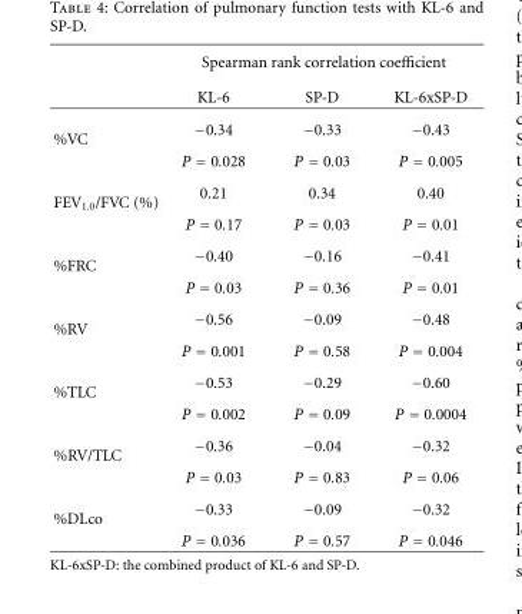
<table><thead><tr><td rowspan="2"></td><td colspan="3">Spearman rank correlation coefficient</td></tr><tr><td>KL-6</td><td>SP-D</td><td>KL-6xSP-D</td></tr></thead><tbody><tr><td rowspan="2">%VC</td><td>−0.34</td><td>−0.33</td><td>−0.43</td></tr><tr><td>P = 0.028</td><td>P = 0.03</td><td>P = 0.005</td></tr><tr><td rowspan="2">FEV<sub>1.0</sub>/FVC (%)</td><td>0.21</td><td>0.34</td><td>0.40</td></tr><tr><td>P = 0.17</td><td>P = 0.03</td><td>P = 0.01</td></tr><tr><td rowspan="2">%FRC</td><td>−0.40</td><td>−0.16</td><td>−0.41</td></tr><tr><td>P = 0.03</td><td>P = 0.36</td><td>P = 0.01</td></tr><tr><td rowspan="2">%RV</td><td>−0.56</td><td>−0.09</td><td>−0.48</td></tr><tr><td>P = 0.001</td><td>P = 0.58</td><td>P = 0.004</td></tr><tr><td rowspan="2">%TLC</td><td>−0.53</td><td>−0.29</td><td>−0.60</td></tr><tr><td>P = 0.002</td><td>P = 0.09</td><td>P = 0.0004</td></tr><tr><td rowspan="2">%RV/TLC</td><td>−0.36</td><td>−0.04</td><td>−0.32</td></tr><tr><td>P = 0.03</td><td>P = 0.83</td><td>P = 0.06</td></tr><tr><td rowspan="2">%DLco</td><td>−0.33</td><td>−0.09</td><td>−0.32</td></tr><tr><td>P = 0.036</td><td>P = 0.57</td><td>P = 0.046</td></tr></tbody></table>